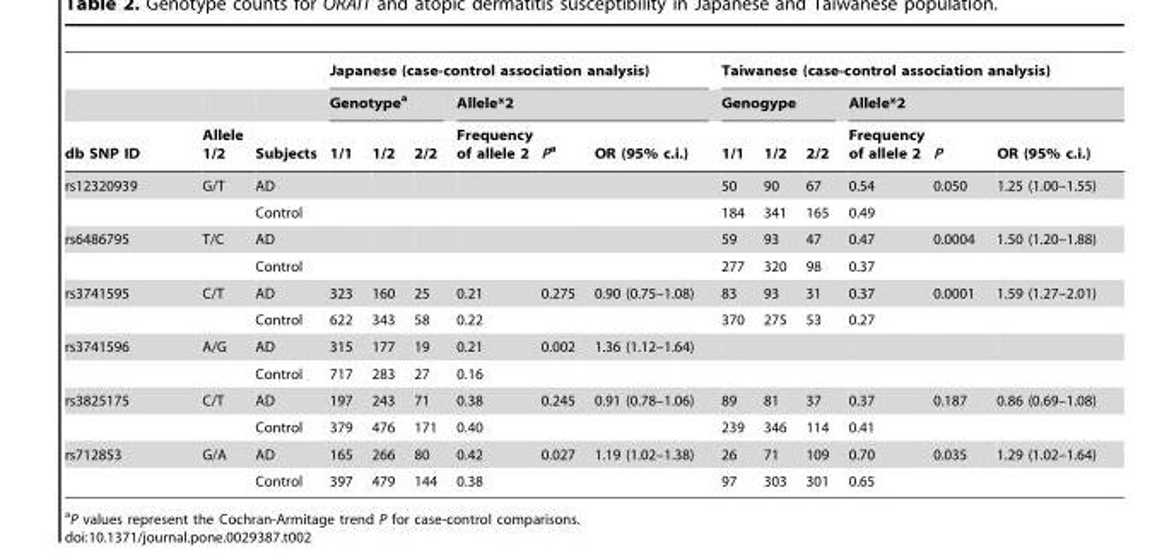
<table><thead><tr><td rowspan="3">db SNP ID</td><td rowspan="3">Allele 1/2</td><td rowspan="3">Subjects</td><td colspan="6">Japanese (case-control association analysis)</td><td colspan="6">Taiwanese (case-control association analysis)</td></tr><tr><td colspan="3">Genotype<sup>a</sup></td><td colspan="3">Allele*2</td><td colspan="3">Genogype</td><td colspan="3">Allele*2</td></tr><tr><td>1/1</td><td>1/2</td><td>2/2</td><td>Frequency of allele 2</td><td>Pa</td><td>OR (95% c.i.)</td><td>1/1</td><td>1/2</td><td>2/2</td><td>Frequency of allele 2</td><td>P</td><td>OR (95% c.i.)</td></tr></thead><tbody><tr><td rowspan="2">rs12320939</td><td>G/T</td><td>AD</td><td></td><td></td><td></td><td></td><td></td><td></td><td>50</td><td>90</td><td>67</td><td>0.54</td><td>0.050</td><td>1.25 (1.00–1.55)</td></tr><tr><td></td><td>Control</td><td></td><td></td><td></td><td></td><td></td><td></td><td>184</td><td>341</td><td>165</td><td>0.49</td><td></td><td></td></tr><tr><td rowspan="2">rs6486795</td><td>T/C</td><td>AD</td><td></td><td></td><td></td><td></td><td></td><td></td><td>59</td><td>93</td><td>47</td><td>0.47</td><td>0.0004</td><td>1.50 (1.20–1.88)</td></tr><tr><td></td><td>Control</td><td></td><td></td><td></td><td></td><td></td><td></td><td>277</td><td>320</td><td>98</td><td>0.37</td><td></td><td></td></tr><tr><td rowspan="2">rs3741595</td><td>C/T</td><td>AD</td><td>323</td><td>160</td><td>25</td><td>0.21</td><td>0.275</td><td>0.90 (0.75–1.08)</td><td>83</td><td>93</td><td>31</td><td>0.37</td><td>0.0001</td><td>1.59 (1.27–2.01)</td></tr><tr><td></td><td>Control</td><td>622</td><td>343</td><td>58</td><td>0.22</td><td></td><td></td><td>370</td><td>275</td><td>53</td><td>0.27</td><td></td><td></td></tr><tr><td rowspan="2">rs3741596</td><td>A/G</td><td>AD</td><td>315</td><td>177</td><td>19</td><td>0.21</td><td>0.002</td><td>1.36 (1.12–1.64)</td><td></td><td></td><td></td><td></td><td></td><td></td></tr><tr><td></td><td>Control</td><td>717</td><td>283</td><td>27</td><td>0.16</td><td></td><td></td><td></td><td></td><td></td><td></td><td></td><td></td></tr><tr><td rowspan="2">rs3825175</td><td>C/T</td><td>AD</td><td>197</td><td>243</td><td>71</td><td>0.38</td><td>0.245</td><td>0.91 (0.78–1.06)</td><td>89</td><td>81</td><td>37</td><td>0.37</td><td>0.187</td><td>0.86 (0.69–1.08)</td></tr><tr><td></td><td>Control</td><td>379</td><td>476</td><td>171</td><td>0.40</td><td></td><td></td><td>239</td><td>346</td><td>114</td><td>0.41</td><td></td><td></td></tr><tr><td rowspan="2">rs712853</td><td>G/A</td><td>AD</td><td>165</td><td>266</td><td>80</td><td>0.42</td><td>0.027</td><td>1.19 (1.02–1.38)</td><td>26</td><td>71</td><td>109</td><td>0.70</td><td>0.035</td><td>1.29 (1.02–1.64)</td></tr><tr><td></td><td>Control</td><td>397</td><td>479</td><td>144</td><td>0.38</td><td></td><td></td><td>97</td><td>303</td><td>301</td><td>0.65</td><td></td><td></td></tr></tbody></table>